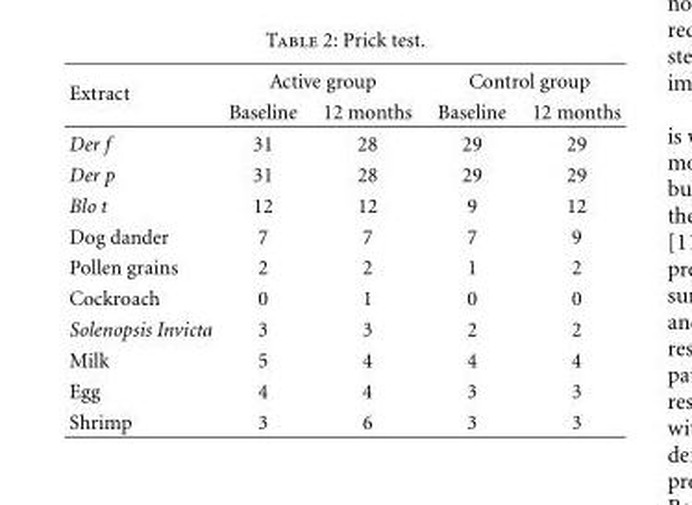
<table><thead><tr><td rowspan="2">Extract</td><td colspan="2">Active group</td><td colspan="2">Control group</td></tr><tr><td>Baseline</td><td>12 months</td><td>Baseline</td><td>12 months</td></tr></thead><tbody><tr><td>Der f</td><td>31</td><td>28</td><td>29</td><td>29</td></tr><tr><td>Der p</td><td>31</td><td>28</td><td>29</td><td>29</td></tr><tr><td>Blo t</td><td>12</td><td>12</td><td>9</td><td>12</td></tr><tr><td>Dog dander</td><td>7</td><td>7</td><td>7</td><td>9</td></tr><tr><td>Pollen grains</td><td>2</td><td>2</td><td>1</td><td>2</td></tr><tr><td>Cockroach</td><td>0</td><td>1</td><td>0</td><td>0</td></tr><tr><td>Solenopsis Invicta</td><td>3</td><td>3</td><td>2</td><td>2</td></tr><tr><td>Milk</td><td>5</td><td>4</td><td>4</td><td>4</td></tr><tr><td>Egg</td><td>4</td><td>4</td><td>3</td><td>3</td></tr><tr><td>Shrimp</td><td>3</td><td>6</td><td>3</td><td>3</td></tr></tbody></table>